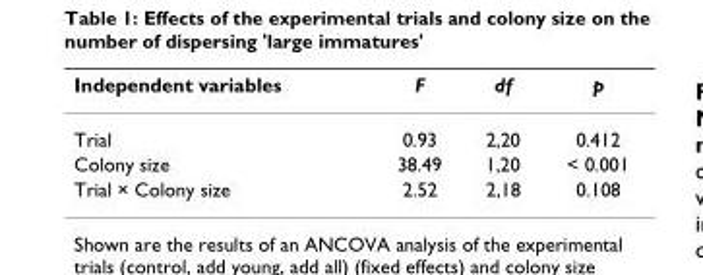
<table><thead><tr><td>Independent variables</td><td>F</td><td>df</td><td>p</td></tr></thead><tbody><tr><td>Trial</td><td>0.93</td><td>2,20</td><td>0.412</td></tr><tr><td>Colony size</td><td>38.49</td><td>1,20</td><td>&lt; 0.001</td></tr><tr><td>Trial × Colony size</td><td>2.52</td><td>2,18</td><td>0.108</td></tr></tbody></table>